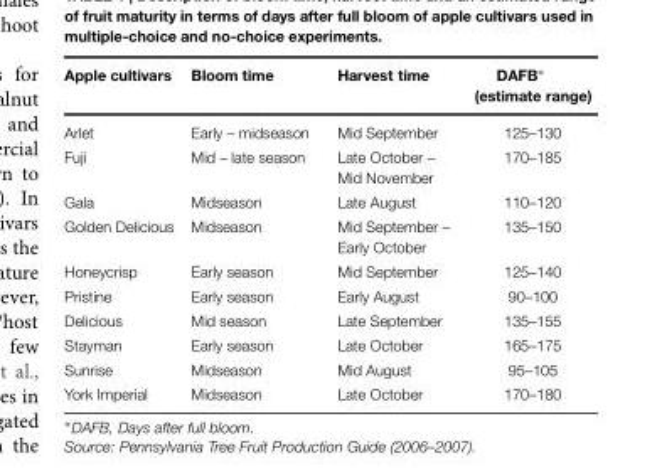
<table><thead><tr><td>Apple cultivars</td><td>Bloom time</td><td>Harvest time</td><td>DAFB∗ (estimate range)</td></tr></thead><tbody><tr><td>Arlet</td><td>Early – midseason</td><td>Mid September</td><td>125–130</td></tr><tr><td>Fuji</td><td>Mid – late season</td><td>Late October – Mid November</td><td>170–185</td></tr><tr><td>Gala</td><td>Midseason</td><td>Late August</td><td>110–120</td></tr><tr><td>Golden Delicious</td><td>Midseason</td><td>Mid September – Early October</td><td>135–150</td></tr><tr><td>Honeycrisp</td><td>Early season</td><td>Mid September</td><td>125–140</td></tr><tr><td>Pristine</td><td>Early season</td><td>Early August</td><td>90–100</td></tr><tr><td>Delicious</td><td>Mid season</td><td>Late September</td><td>135–155</td></tr><tr><td>Stayman</td><td>Early season</td><td>Late October</td><td>165–175</td></tr><tr><td>Sunrise</td><td>Midseason</td><td>Mid August</td><td>95–105</td></tr><tr><td>York Imperial</td><td>Midseason</td><td>Late October</td><td>170–180</td></tr></tbody></table>